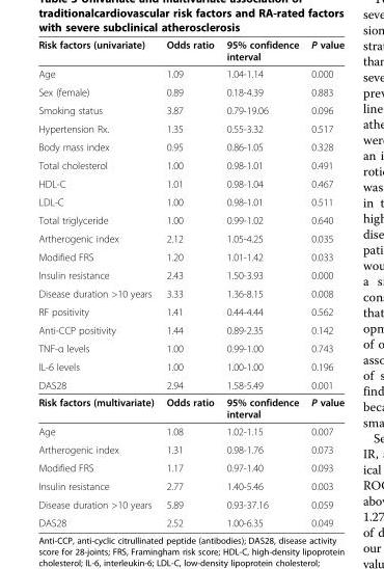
<table><tbody><tr><td>Risk factors (univariate)</td><td>Odds ratio</td><td>95% confidence interval</td><td>P value</td></tr><tr><td>Age</td><td>1.09</td><td>1.04-1.14</td><td>0.000</td></tr><tr><td>Sex (female)</td><td>0.89</td><td>0.18-4.39</td><td>0.883</td></tr><tr><td>Smoking status</td><td>3.87</td><td>0.79-19.06</td><td>0.096</td></tr><tr><td>Hypertension Rx.</td><td>1.35</td><td>0.55-3.32</td><td>0.517</td></tr><tr><td>Body mass index</td><td>0.95</td><td>0.86-1.05</td><td>0.328</td></tr><tr><td>Total cholesterol</td><td>1.00</td><td>0.98-1.01</td><td>0.491</td></tr><tr><td>HDL-C</td><td>1.01</td><td>0.98-1.04</td><td>0.467</td></tr><tr><td>LDL-C</td><td>1.00</td><td>0.98-1.01</td><td>0.511</td></tr><tr><td>Total triglyceride</td><td>1.00</td><td>0.99-1.02</td><td>0.640</td></tr><tr><td>Artherogenic index</td><td>2.12</td><td>1.05-4.25</td><td>0.035</td></tr><tr><td>Modified FRS</td><td>1.20</td><td>1.01-1.42</td><td>0.033</td></tr><tr><td>Insulin resistance</td><td>2.43</td><td>1.50-3.93</td><td>0.000</td></tr><tr><td>Disease duration &gt;10 years</td><td>3.33</td><td>1.36-8.15</td><td>0.008</td></tr><tr><td>RF positivity</td><td>1.41</td><td>0.44-4.44</td><td>0.562</td></tr><tr><td>Anti-CCP positivity</td><td>1.44</td><td>0.89-2.35</td><td>0.142</td></tr><tr><td>TNF-α levels</td><td>1.00</td><td>0.99-1.00</td><td>0.743</td></tr><tr><td>IL-6 levels</td><td>1.00</td><td>1.00-1.00</td><td>0.196</td></tr><tr><td>DAS28</td><td>2.94</td><td>1.58-5.49</td><td>0.001</td></tr><tr><td>Risk factors (multivariate)</td><td>Odds ratio</td><td>95% confidence interval</td><td>P value</td></tr><tr><td>Age</td><td>1.08</td><td>1.02-1.15</td><td>0.007</td></tr><tr><td>Artherogenic index</td><td>1.31</td><td>0.98-1.76</td><td>0.073</td></tr><tr><td>Modified FRS</td><td>1.17</td><td>0.97-1.40</td><td>0.093</td></tr><tr><td>Insulin resistance</td><td>2.77</td><td>1.40-5.46</td><td>0.003</td></tr><tr><td>Disease duration &gt;10 years</td><td>5.89</td><td>0.93-37.16</td><td>0.059</td></tr><tr><td>DAS28</td><td>2.52</td><td>1.00-6.35</td><td>0.049</td></tr></tbody></table>